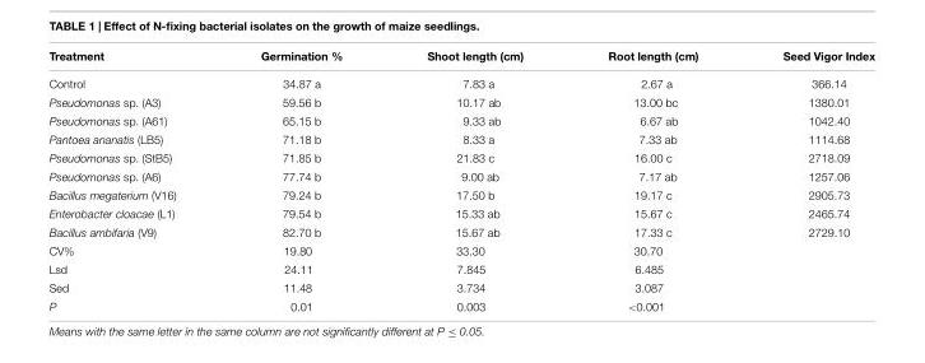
<table><thead><tr><td>Treatment</td><td>Germination %</td><td>Shoot length (cm)</td><td>Root length (cm)</td><td>Seed Vigor Index</td></tr></thead><tbody><tr><td>Control</td><td>34.87 a</td><td>7.83 a</td><td>2.67 a</td><td>366.14</td></tr><tr><td>Pseudomonas sp. (A3)</td><td>59.56 b</td><td>10.17 ab</td><td>13.00 bc</td><td>1380.01</td></tr><tr><td>Pseudomonas sp. (A61)</td><td>65.15 b</td><td>9.33 ab</td><td>6.67 ab</td><td>1042.40</td></tr><tr><td>Pantoea ananatis (LB5)</td><td>71.18 b</td><td>8.33 a</td><td>7.33 ab</td><td>1114.68</td></tr><tr><td>Pseudomonas sp. (StB5)</td><td>71.85 b</td><td>21.83 c</td><td>16.00 c</td><td>2718.09</td></tr><tr><td>Pseudomonas sp. (A6)</td><td>77.74 b</td><td>9.00 ab</td><td>7.17 ab</td><td>1257.06</td></tr><tr><td>Bacillus megaterium (V16)</td><td>79.24 b</td><td>17.50 b</td><td>19.17 c</td><td>2905.73</td></tr><tr><td>Enterobacter cloacae (L1)</td><td>79.54 b</td><td>15.33 ab</td><td>15.67 c</td><td>2465.74</td></tr><tr><td>Bacillus ambifaria (V9)</td><td>82.70 b</td><td>15.67 ab</td><td>17.33 c</td><td>2729.10</td></tr><tr><td>CV%</td><td>19.80</td><td>33.30</td><td>30.70</td><td></td></tr><tr><td>Lsd</td><td>24.11</td><td>7.845</td><td>6.485</td><td></td></tr><tr><td>Sed</td><td>11.48</td><td>3.734</td><td>3.087</td><td></td></tr><tr><td>P</td><td>0.01</td><td>0.003</td><td>&lt;0.001</td><td></td></tr></tbody></table>